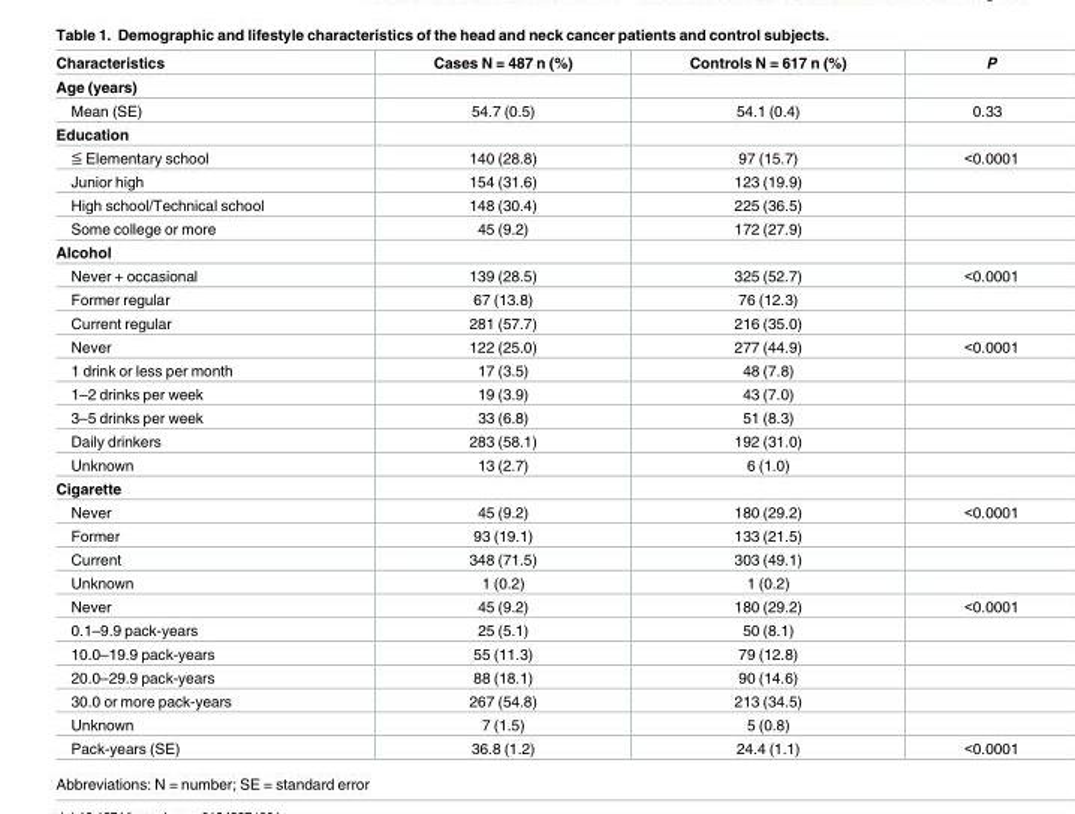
<table><thead><tr><td>Characteristics</td><td>Cases N = 487 n (%)</td><td>Controls N = 617 n (%)</td><td>P</td></tr></thead><tbody><tr><td colspan="4">Age (years)</td></tr><tr><td>Mean (SE)</td><td>54.7 (0.5)</td><td>54.1 (0.4)</td><td>0.33</td></tr><tr><td colspan="4">Education</td></tr><tr><td>≦ Elementary school</td><td>140 (28.8)</td><td>97 (15.7)</td><td>&lt;0.0001</td></tr><tr><td>Junior high</td><td>154 (31.6)</td><td>123 (19.9)</td><td></td></tr><tr><td>High school/Technical school</td><td>148 (30.4)</td><td>225 (36.5)</td><td></td></tr><tr><td>Some college or more</td><td>45 (9.2)</td><td>172 (27.9)</td><td></td></tr><tr><td colspan="4">Alcohol</td></tr><tr><td>Never + occasional</td><td>139 (28.5)</td><td>325 (52.7)</td><td>&lt;0.0001</td></tr><tr><td>Former regular</td><td>67 (13.8)</td><td>76 (12.3)</td><td></td></tr><tr><td>Current regular</td><td>281 (57.7)</td><td>216 (35.0)</td><td></td></tr><tr><td>Never</td><td>122 (25.0)</td><td>277 (44.9)</td><td>&lt;0.0001</td></tr><tr><td>1 drink or less per month</td><td>17 (3.5)</td><td>48 (7.8)</td><td></td></tr><tr><td>1–2 drinks per week</td><td>19 (3.9)</td><td>43 (7.0)</td><td></td></tr><tr><td>3–5 drinks per week</td><td>33 (6.8)</td><td>51 (8.3)</td><td></td></tr><tr><td>Daily drinkers</td><td>283 (58.1)</td><td>192 (31.0)</td><td></td></tr><tr><td>Unknown</td><td>13 (2.7)</td><td>6 (1.0)</td><td></td></tr><tr><td colspan="4">Cigarette</td></tr><tr><td>Never</td><td>45 (9.2)</td><td>180 (29.2)</td><td>&lt;0.0001</td></tr><tr><td>Former</td><td>93 (19.1)</td><td>133 (21.5)</td><td></td></tr><tr><td>Current</td><td>348 (71.5)</td><td>303 (49.1)</td><td></td></tr><tr><td>Unknown</td><td>1 (0.2)</td><td>1 (0.2)</td><td></td></tr><tr><td>Never</td><td>45 (9.2)</td><td>180 (29.2)</td><td>&lt;0.0001</td></tr><tr><td>0.1–9.9 pack-years</td><td>25 (5.1)</td><td>50 (8.1)</td><td></td></tr><tr><td>10.0–19.9 pack-years</td><td>55 (11.3)</td><td>79 (12.8)</td><td></td></tr><tr><td>20.0–29.9 pack-years</td><td>88 (18.1)</td><td>90 (14.6)</td><td></td></tr><tr><td>30.0 or more pack-years</td><td>267 (54.8)</td><td>213 (34.5)</td><td></td></tr><tr><td>Unknown</td><td>7 (1.5)</td><td>5 (0.8)</td><td></td></tr><tr><td>Pack-years (SE)</td><td>36.8 (1.2)</td><td>24.4 (1.1)</td><td>&lt;0.0001</td></tr></tbody></table>